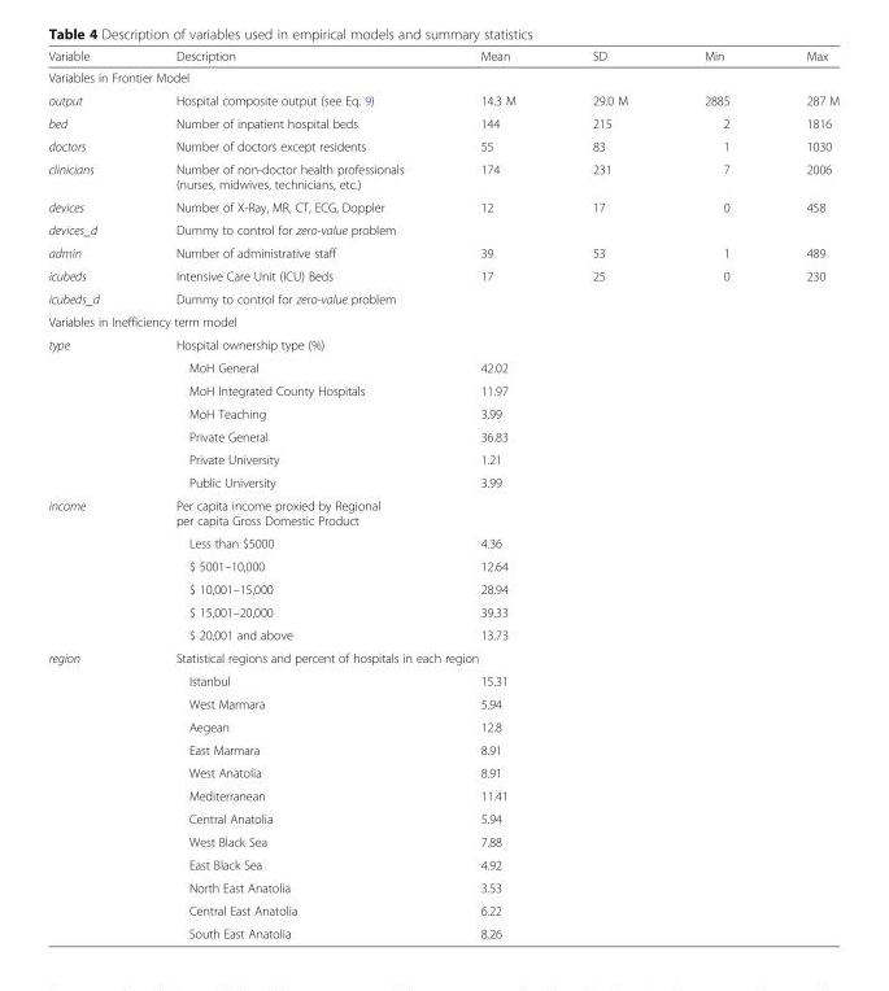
<table><thead><tr><td>Variable</td><td>Description</td><td>Mean</td><td>SD</td><td>Min</td><td>Max</td></tr></thead><tbody><tr><td colspan="6">Variables in Frontier Model</td></tr><tr><td>output</td><td>Hospital composite output (see Eq. 9)</td><td>14.3 M</td><td>29.0 M</td><td>2885</td><td>287 M</td></tr><tr><td>bed</td><td>Number of inpatient hospital beds</td><td>144</td><td>215</td><td>2</td><td>1816</td></tr><tr><td>doctors</td><td>Number of doctors except residents</td><td>55</td><td>83</td><td>1</td><td>1030</td></tr><tr><td>clinicians</td><td>Number of non-doctor health professionals (nurses, midwives, technicians, etc.)</td><td>174</td><td>231</td><td>7</td><td>2006</td></tr><tr><td>devices</td><td>Number of X-Ray, MR, CT, ECG, Doppler</td><td>12</td><td>17</td><td>0</td><td>458</td></tr><tr><td>devices_d</td><td>Dummy to control for zero-value problem</td><td></td><td></td><td></td><td></td></tr><tr><td>admin</td><td>Number of administrative staff</td><td>39</td><td>53</td><td>1</td><td>489</td></tr><tr><td>icubeds</td><td>Intensive Care Unit (ICU) Beds</td><td>17</td><td>25</td><td>0</td><td>230</td></tr><tr><td>icubeds_d</td><td>Dummy to control for zero-value problem</td><td></td><td></td><td></td><td></td></tr><tr><td colspan="6">Variables in Inefficiency term model</td></tr><tr><td rowspan="7">type</td><td>Hospital ownership type (%)</td><td></td><td></td><td></td><td></td></tr><tr><td>MoH General</td><td>42.02</td><td></td><td></td><td></td></tr><tr><td>MoH Integrated County Hospitals</td><td>11.97</td><td></td><td></td><td></td></tr><tr><td>MoH Teaching</td><td>3.99</td><td></td><td></td><td></td></tr><tr><td>Private General</td><td>36.83</td><td></td><td></td><td></td></tr><tr><td>Private University</td><td>1.21</td><td></td><td></td><td></td></tr><tr><td>Public University</td><td>3.99</td><td></td><td></td><td></td></tr><tr><td rowspan="6">income</td><td colspan="5">Per capita income proxied by Regional per capita Gross Domestic Product</td></tr><tr><td>Less than $5000</td><td>4.36</td><td></td><td></td><td></td></tr><tr><td>$ 5001–10,000</td><td>12.64</td><td></td><td></td><td></td></tr><tr><td>$ 10,001–15,000</td><td>28.94</td><td></td><td></td><td></td></tr><tr><td>$ 15,001–20,000</td><td>39.33</td><td></td><td></td><td></td></tr><tr><td>$ 20,001 and above</td><td>13.73</td><td></td><td></td><td></td></tr><tr><td rowspan="13">region</td><td colspan="5">Statistical regions and percent of hospitals in each region</td></tr><tr><td>Istanbul</td><td>15.31</td><td></td><td></td><td></td></tr><tr><td>West Marmara</td><td>5.94</td><td></td><td></td><td></td></tr><tr><td>Aegean</td><td>12.8</td><td></td><td></td><td></td></tr><tr><td>East Marmara</td><td>8.91</td><td></td><td></td><td></td></tr><tr><td>West Anatolia</td><td>8.91</td><td></td><td></td><td></td></tr><tr><td>Mediterranean</td><td>11.41</td><td></td><td></td><td></td></tr><tr><td>Central Anatolia</td><td>5.94</td><td></td><td></td><td></td></tr><tr><td>West Black Sea</td><td>7.88</td><td></td><td></td><td></td></tr><tr><td>East Black Sea</td><td>4.92</td><td></td><td></td><td></td></tr><tr><td>North East Anatolia</td><td>3.53</td><td></td><td></td><td></td></tr><tr><td>Central East Anatolia</td><td>6.22</td><td></td><td></td><td></td></tr><tr><td>South East Anatolia</td><td>8.26</td><td></td><td></td><td></td></tr></tbody></table>